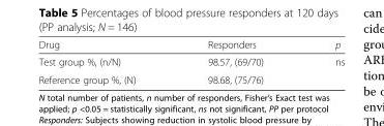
<table><thead><tr><td>Drug</td><td>Responders</td><td>p</td></tr></thead><tbody><tr><td>Test group %, (n/N)</td><td>98.57, (69/70)</td><td rowspan="2">ns</td></tr><tr><td>Reference group %, (N)</td><td>98.68, (75/76)</td></tr></tbody></table>